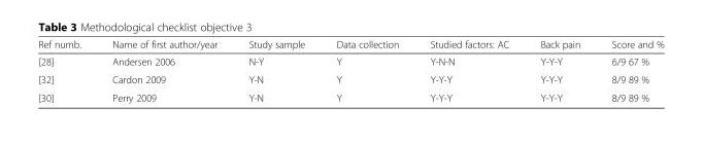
<table><thead><tr><td>Ref numb.</td><td>Name of first author/year</td><td>Study sample</td><td>Data collection</td><td>Studied factors: AC</td><td>Back pain</td><td>Score and %</td></tr></thead><tbody><tr><td>[28]</td><td>Andersen 2006</td><td>N-Y</td><td>Y</td><td>Y-N-N</td><td>Y-Y-Y</td><td>6/9 67 %</td></tr><tr><td>[32]</td><td>Cardon 2009</td><td>Y-N</td><td>Y</td><td>Y-Y-Y</td><td>Y-Y-Y</td><td>8/9 89 %</td></tr><tr><td>[30]</td><td>Perry 2009</td><td>Y-N</td><td>Y</td><td>Y-Y-Y</td><td>Y-Y-Y</td><td>8/9 89 %</td></tr></tbody></table>